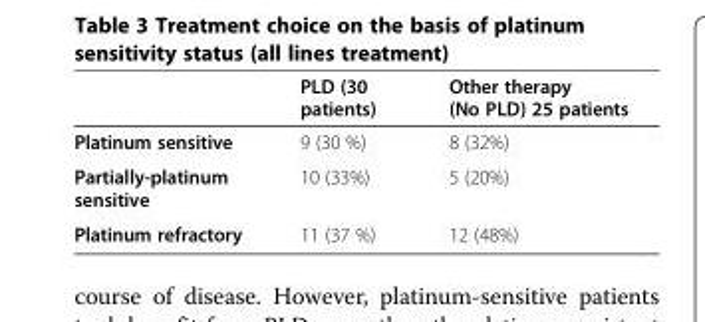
<table><thead><tr><td></td><td>PLD (30 patients)</td><td>Other therapy (No PLD) 25 patients</td></tr></thead><tbody><tr><td>Platinum sensitive</td><td>9 (30 %)</td><td>8 (32%)</td></tr><tr><td>Partially-platinum sensitive</td><td>10 (33%)</td><td>5 (20%)</td></tr><tr><td>Platinum refractory</td><td>11 (37 %)</td><td>12 (48%)</td></tr></tbody></table>